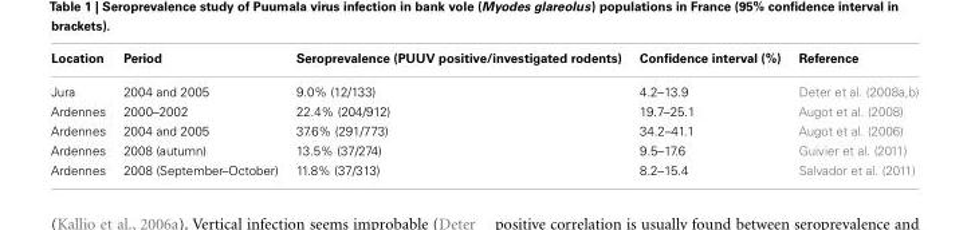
<table><thead><tr><td>Location</td><td>Period</td><td>Seroprevalence (PUUV positive/investigated rodents)</td><td>Confidence interval (%)</td><td>Reference</td></tr></thead><tbody><tr><td>Jura</td><td>2004 and 2005</td><td>9.0% (12/133)</td><td>4.2–13.9</td><td>Deter et al. (2008a,b)</td></tr><tr><td>Ardennes</td><td>2000–2002</td><td>22.4% (204/912)</td><td>19.7–25.1</td><td>Augot et al. (2008)</td></tr><tr><td>Ardennes</td><td>2004 and 2005</td><td>37.6% (291/773)</td><td>34.2–41.1</td><td>Augot et al. (2006)</td></tr><tr><td>Ardennes</td><td>2008 (autumn)</td><td>13.5% (37/274)</td><td>9.5–17.6</td><td>Guivier et al. (2011)</td></tr><tr><td>Ardennes</td><td>2008 (September–October)</td><td>11.8% (37/313)</td><td>8.2–15.4</td><td>Salvador et al. (2011)</td></tr></tbody></table>